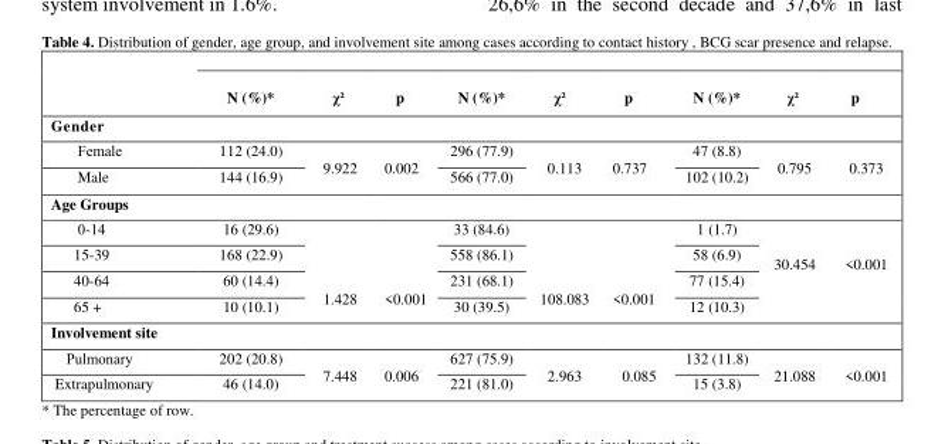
<table><thead><tr><td rowspan="2"></td><td colspan="9">G scar presence</td></tr><tr><td>N (%)*</td><td>χ²</td><td>p</td><td>N (%)*</td><td>χ²</td><td>p</td><td>N (%)*</td><td>χ²</td><td>p</td></tr></thead><tbody><tr><td colspan="10">Gender</td></tr><tr><td>Female</td><td>112 (24.0)</td><td rowspan="2">9.922</td><td rowspan="2">0.002</td><td>296 (77.9)</td><td rowspan="2">0.113</td><td rowspan="2">0.737</td><td>47 (8.8)</td><td rowspan="2">0.795</td><td rowspan="2">0.373</td></tr><tr><td>Male</td><td>144 (16.9)</td><td>566 (77.0)</td><td>102 (10.2)</td></tr><tr><td colspan="10">Age Groups</td></tr><tr><td>0-14</td><td>16 (29.6)</td><td rowspan="4">1.428</td><td rowspan="4">&lt;0.001</td><td>33 (84.6)</td><td rowspan="4">108.083</td><td rowspan="4">&lt;0.001</td><td>1 (1.7)</td><td rowspan="4">30.454</td><td rowspan="4">&lt;0.001</td></tr><tr><td>15-39</td><td>168 (22.9)</td><td>558 (86.1)</td><td>58 (6.9)</td></tr><tr><td>40-64</td><td>60 (14.4)</td><td>231 (68.1)</td><td>77 (15.4)</td></tr><tr><td>65 +</td><td>10 (10.1)</td><td>30 (39.5)</td><td>12 (10.3)</td></tr><tr><td colspan="10">Involvement site</td></tr><tr><td>Pulmonary</td><td>202 (20.8)</td><td rowspan="2">7.448</td><td rowspan="2">0.006</td><td>627 (75.9)</td><td rowspan="2">2.963</td><td rowspan="2">0.085</td><td>132 (11.8)</td><td rowspan="2">21.088</td><td rowspan="2">&lt;0.001</td></tr><tr><td>Extrapulmonary</td><td>46 (14.0)</td><td>221 (81.0)</td><td>15 (3.8)</td></tr></tbody></table>